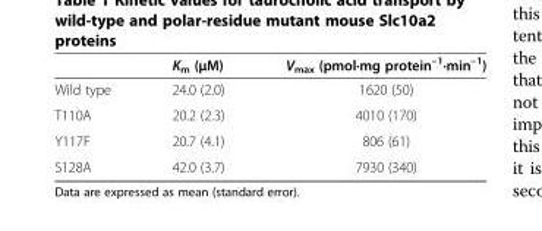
<table><thead><tr><td></td><td>K<sub>m</sub> (μM)</td><td>V<sub>max</sub> (pmol·mg protein<sup>–1</sup>·min<sup>–1</sup>)</td></tr></thead><tbody><tr><td>Wild type</td><td>24.0 (2.0)</td><td>1620 (50)</td></tr><tr><td>T110A</td><td>20.2 (2.3)</td><td>4010 (170)</td></tr><tr><td>Y117F</td><td>20.7 (4.1)</td><td>806 (61)</td></tr><tr><td>S128A</td><td>42.0 (3.7)</td><td>7930 (340)</td></tr></tbody></table>